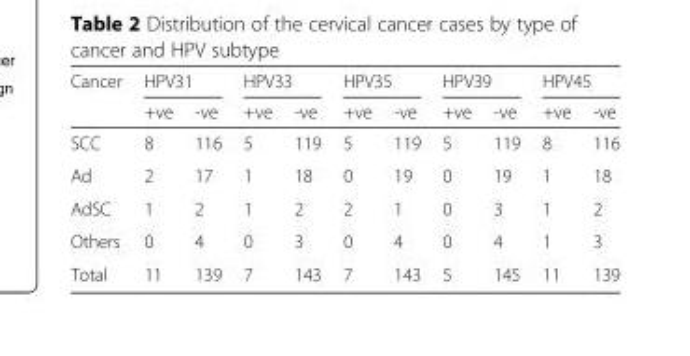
<table><thead><tr><td rowspan="2">Cancer</td><td colspan="2">HPV31</td><td colspan="2">HPV33</td><td colspan="2">HPV35</td><td colspan="2">HPV39</td><td colspan="2">HPV45</td></tr><tr><td>+ve</td><td>-ve</td><td>+ve</td><td>-ve</td><td>+ve</td><td>-ve</td><td>+ve</td><td>-ve</td><td>+ve</td><td>-ve</td></tr></thead><tbody><tr><td>SCC</td><td>8</td><td>116</td><td>5</td><td>119</td><td>5</td><td>119</td><td>5</td><td>119</td><td>8</td><td>116</td></tr><tr><td>Ad</td><td>2</td><td>17</td><td>1</td><td>18</td><td>0</td><td>19</td><td>0</td><td>19</td><td>1</td><td>18</td></tr><tr><td>AdSC</td><td>1</td><td>2</td><td>1</td><td>2</td><td>2</td><td>1</td><td>0</td><td>3</td><td>1</td><td>2</td></tr><tr><td>Others</td><td>0</td><td>4</td><td>0</td><td>3</td><td>0</td><td>4</td><td>0</td><td>4</td><td>1</td><td>3</td></tr><tr><td>Total</td><td>11</td><td>139</td><td>7</td><td>143</td><td>7</td><td>143</td><td>5</td><td>145</td><td>11</td><td>139</td></tr></tbody></table>